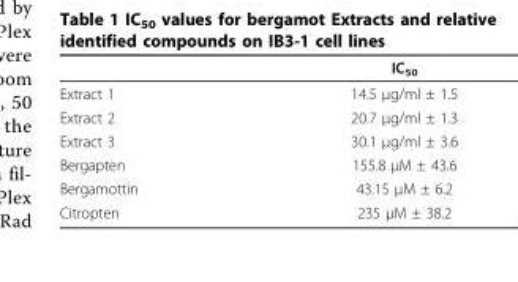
<table><thead><tr><td></td><td>IC<sub>50</sub></td></tr></thead><tbody><tr><td>Extract 1</td><td>14.5 μg/ml ± 1.5</td></tr><tr><td>Extract 2</td><td>20.7 μg/ml ± 1.3</td></tr><tr><td>Extract 3</td><td>30.1 μg/ml ± 3.6</td></tr><tr><td>Bergapten</td><td>155.8 μM ± 43.6</td></tr><tr><td>Bergamottin</td><td>43.15 μM ± 6.2</td></tr><tr><td>Citropten</td><td>235 μM ± 38.2</td></tr></tbody></table>